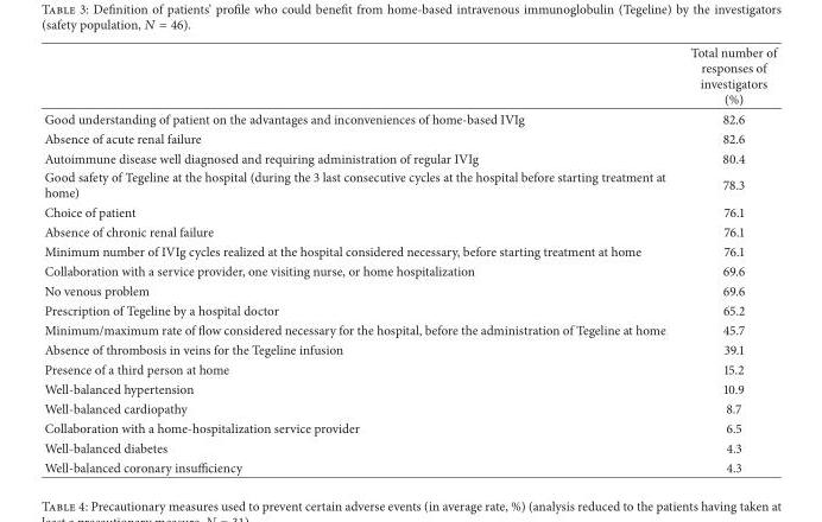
<table><thead><tr><td></td><td>Total number of responses of investigators (%)</td></tr></thead><tbody><tr><td>Good understanding of patient on the advantages and inconveniences of home-based IVIg</td><td>82.6</td></tr><tr><td>Absence of acute renal failure</td><td>82.6</td></tr><tr><td>Autoimmune disease well diagnosed and requiring administration of regular IVIg</td><td>80.4</td></tr><tr><td>Good safety of Tegeline at the hospital (during the 3 last consecutive cycles at the hospital before starting treatment at home)</td><td>78.3</td></tr><tr><td>Choice of patient</td><td>76.1</td></tr><tr><td>Absence of chronic renal failure</td><td>76.1</td></tr><tr><td>Minimum number of IVIg cycles realized at the hospital considered necessary, before starting treatment at home</td><td>76.1</td></tr><tr><td>Collaboration with a service provider, one visiting nurse, or home hospitalization</td><td>69.6</td></tr><tr><td>No venous problem</td><td>69.6</td></tr><tr><td>Prescription of Tegeline by a hospital doctor</td><td>65.2</td></tr><tr><td>Minimum/maximum rate of flow considered necessary for the hospital, before the administration of Tegeline at home</td><td>45.7</td></tr><tr><td>Absence of thrombosis in veins for the Tegeline infusion</td><td>39.1</td></tr><tr><td>Presence of a third person at home</td><td>15.2</td></tr><tr><td>Well-balanced hypertension</td><td>10.9</td></tr><tr><td>Well-balanced cardiopathy</td><td>8.7</td></tr><tr><td>Collaboration with a home-hospitalization service provider</td><td>6.5</td></tr><tr><td>Well-balanced diabetes</td><td>4.3</td></tr><tr><td>Well-balanced coronary insufficiency</td><td>4.3</td></tr></tbody></table>